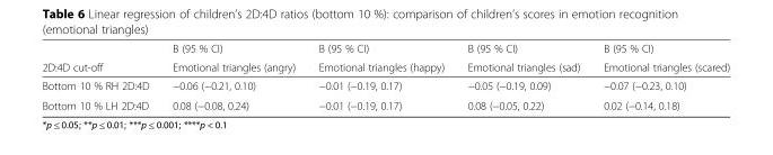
<table><thead><tr><td rowspan="2">2D:4D cut-off</td><td rowspan="2">B (95 % CI) Emotional triangles (angry)</td><td rowspan="2">B (95 % CI) Emotional triangles (happy)</td><td rowspan="2">B (95 % CI) Emotional triangles (sad)</td><td rowspan="2">B (95 % CI) Emotional triangles (scared)</td></tr><tr></tr></thead><tbody><tr><td>Bottom 10 % RH 2D:4D</td><td>−0.06 (−0.21, 0.10)</td><td>−0.01 (−0.19, 0.17)</td><td>−0.05 (−0.19, 0.09)</td><td>−0.07 (−0.23, 0.10)</td></tr><tr><td>Bottom 10 % LH 2D:4D</td><td>0.08 (−0.08, 0.24)</td><td>−0.01 (−0.19, 0.17)</td><td>0.08 (−0.05, 0.22)</td><td>0.02 (−0.14, 0.18)</td></tr></tbody></table>